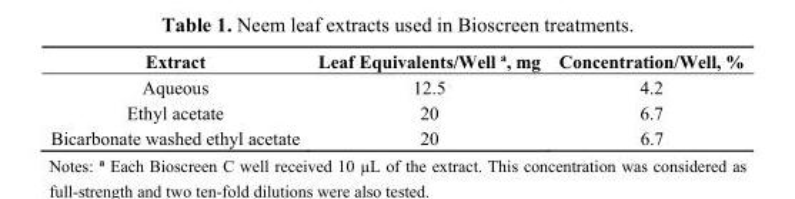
<table><thead><tr><td>Extract</td><td>Leaf Equivalents/Well <sup>a</sup>, mg</td><td>Concentration/Well, %</td></tr></thead><tbody><tr><td>Aqueous</td><td>12.5</td><td>4.2</td></tr><tr><td>Ethyl acetate</td><td>20</td><td>6.7</td></tr><tr><td>Bicarbonate washed ethyl acetate</td><td>20</td><td>6.7</td></tr></tbody></table>